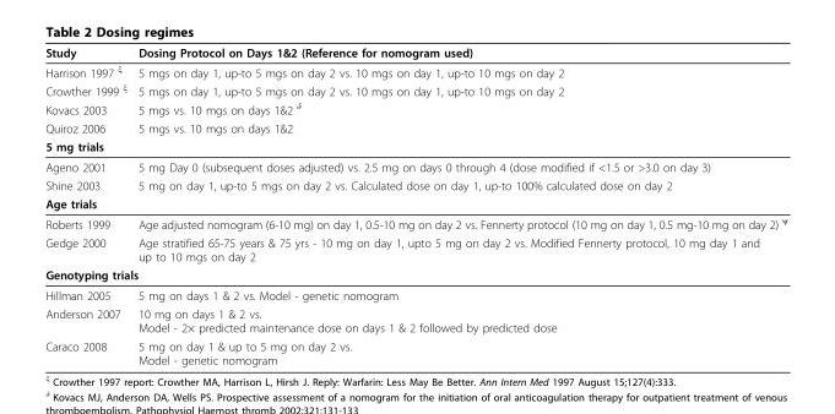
<table><thead><tr><td>Study</td><td>Dosing Protocol on Days 1&amp;2 (Reference for nomogram used)</td></tr></thead><tbody><tr><td>Harrison 1997 <sup>ξ</sup></td><td>5 mgs on day 1, up-to 5 mgs on day 2 vs. 10 mgs on day 1, up-to 10 mgs on day 2</td></tr><tr><td>Crowther 1999 <sup>ξ</sup></td><td>5 mgs on day 1, up-to 5 mgs on day 2 vs. 10 mgs on day 1, up-to 10 mgs on day 2</td></tr><tr><td>Kovacs 2003</td><td>5 mgs vs. 10 mgs on days 1&amp;2 <sup>δ</sup></td></tr><tr><td>Quiroz 2006</td><td>5 mgs vs. 10 mgs on days 1&amp;2</td></tr><tr><td colspan="2">5 mg trials</td></tr><tr><td>Ageno 2001</td><td>5 mg Day 0 (subsequent doses adjusted) vs. 2.5 mg on days 0 through 4 (dose modified if &lt;1.5 or &gt;3.0 on day 3)</td></tr><tr><td>Shine 2003</td><td>5 mg on day 1, up-to 5 mgs on day 2 vs. Calculated dose on day 1, up-to 100% calculated dose on day 2</td></tr><tr><td colspan="2">Age trials</td></tr><tr><td>Roberts 1999</td><td>Age adjusted nomogram (6-10 mg) on day 1, 0.5-10 mg on day 2 vs. Fennerty protocol (10 mg on day 1, 0.5 mg-10 mg on day 2) <sup>ψ</sup></td></tr><tr><td>Gedge 2000</td><td>Age stratified 65-75 years &amp; 75 yrs - 10 mg on day 1, upto 5 mg on day 2 vs. Modified Fennerty protocol, 10 mg day 1 and up to 10 mgs on day 2</td></tr><tr><td colspan="2">Genotyping trials</td></tr><tr><td>Hillman 2005</td><td>5 mg on days 1 &amp; 2 vs. Model - genetic nomogram</td></tr><tr><td>Anderson 2007</td><td>10 mg on days 1 &amp; 2 vs. Model - 2× predicted maintenance dose on days 1 &amp; 2 followed by predicted dose</td></tr><tr><td>Caraco 2008</td><td>5 mg on day 1 &amp; up to 5 mg on day 2 vs. Model - genetic nomogram</td></tr></tbody></table>